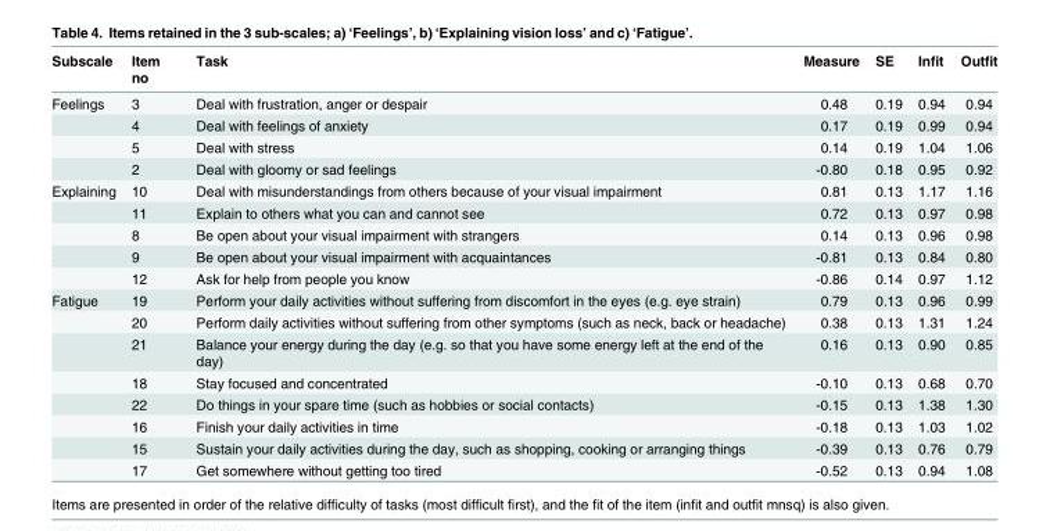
<table><thead><tr><td>Subscale</td><td>Item no</td><td>Task</td><td>Measure</td><td>SE</td><td>Infit</td><td>Outfit</td></tr></thead><tbody><tr><td rowspan="4">Feelings</td><td>3</td><td>Deal with frustration, anger or despair</td><td>0.48</td><td>0.19</td><td>0.94</td><td>0.94</td></tr><tr><td>4</td><td>Deal with feelings of anxiety</td><td>0.17</td><td>0.19</td><td>0.99</td><td>0.94</td></tr><tr><td>5</td><td>Deal with stress</td><td>0.14</td><td>0.19</td><td>1.04</td><td>1.06</td></tr><tr><td>2</td><td>Deal with gloomy or sad feelings</td><td>-0.80</td><td>0.18</td><td>0.95</td><td>0.92</td></tr><tr><td rowspan="5">Explaining</td><td>10</td><td>Deal with misunderstandings from others because of your visual impairment</td><td>0.81</td><td>0.13</td><td>1.17</td><td>1.16</td></tr><tr><td>11</td><td>Explain to others what you can and cannot see</td><td>0.72</td><td>0.13</td><td>0.97</td><td>0.98</td></tr><tr><td>8</td><td>Be open about your visual impairment with strangers</td><td>0.14</td><td>0.13</td><td>0.96</td><td>0.98</td></tr><tr><td>9</td><td>Be open about your visual impairment with acquaintances</td><td>-0.81</td><td>0.13</td><td>0.84</td><td>0.80</td></tr><tr><td>12</td><td>Ask for help from people you know</td><td>-0.86</td><td>0.14</td><td>0.97</td><td>1.12</td></tr><tr><td rowspan="8">Fatigue</td><td>19</td><td>Perform your daily activities without suffering from discomfort in the eyes (e.g. eye strain)</td><td>0.79</td><td>0.13</td><td>0.96</td><td>0.99</td></tr><tr><td>20</td><td>Perform daily activities without suffering from other symptoms (such as neck, back or headache)</td><td>0.38</td><td>0.13</td><td>1.31</td><td>1.24</td></tr><tr><td>21</td><td>Balance your energy during the day (e.g. so that you have some energy left at the end of the day)</td><td>0.16</td><td>0.13</td><td>0.90</td><td>0.85</td></tr><tr><td>18</td><td>Stay focused and concentrated</td><td>-0.10</td><td>0.13</td><td>0.68</td><td>0.70</td></tr><tr><td>22</td><td>Do things in your spare time (such as hobbies or social contacts)</td><td>-0.15</td><td>0.13</td><td>1.38</td><td>1.30</td></tr><tr><td>16</td><td>Finish your daily activities in time</td><td>-0.18</td><td>0.13</td><td>1.03</td><td>1.02</td></tr><tr><td>15</td><td>Sustain your daily activities during the day, such as shopping, cooking or arranging things</td><td>-0.39</td><td>0.13</td><td>0.76</td><td>0.79</td></tr><tr><td>17</td><td>Get somewhere without getting too tired</td><td>-0.52</td><td>0.13</td><td>0.94</td><td>1.08</td></tr></tbody></table>